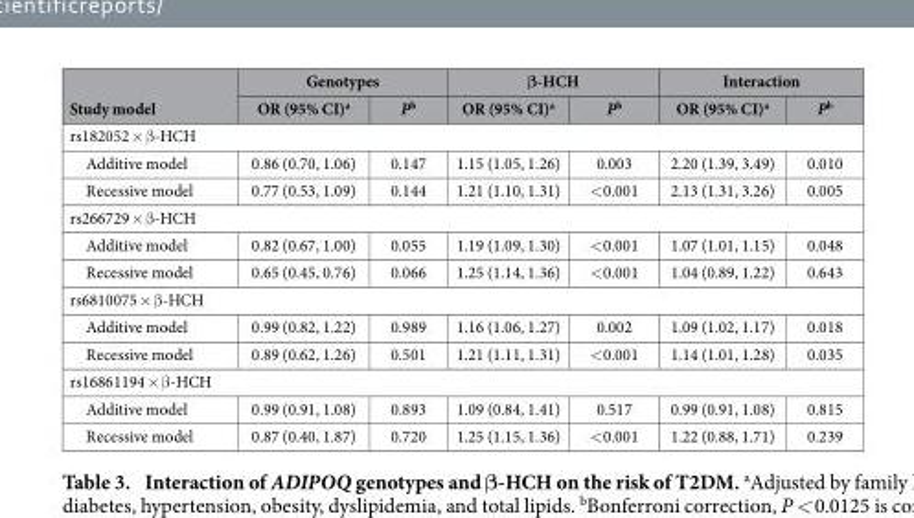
<table><thead><tr><td rowspan="2">Study model</td><td colspan="2">Genotypes</td><td colspan="2">β-HCH</td><td colspan="2">Interaction</td></tr><tr><td>OR (95% CI)<sup>a</sup></td><td>P<sup>b</sup></td><td>OR (95% CI)<sup>a</sup></td><td>P<sup>b</sup></td><td>OR (95% CI)<sup>a</sup></td><td>P<sup>b</sup></td></tr></thead><tbody><tr><td colspan="7">rs182052 × β -HCH</td></tr><tr><td>Additive model</td><td>0.86 (0.70, 1.06)</td><td>0.147</td><td>1.15 (1.05, 1.26)</td><td>0.003</td><td>2.20 (1.39, 3.49)</td><td>0.010</td></tr><tr><td>Recessive model</td><td>0.77 (0.53, 1.09)</td><td>0.144</td><td>1.21 (1.10, 1.31)</td><td>&lt; 0.001</td><td>2.13 (1.31, 3.26)</td><td>0.005</td></tr><tr><td colspan="7">rs266729 × β -HCH</td></tr><tr><td>Additive model</td><td>0.82 (0.67, 1.00)</td><td>0.055</td><td>1.19 (1.09, 1.30)</td><td>&lt; 0.001</td><td>1.07 (1.01, 1.15)</td><td>0.048</td></tr><tr><td>Recessive model</td><td>0.65 (0.45, 0.76)</td><td>0.066</td><td>1.25 (1.14, 1.36)</td><td>&lt; 0.001</td><td>1.04 (0.89, 1.22)</td><td>0.643</td></tr><tr><td colspan="7">rs6810075 × β -HCH</td></tr><tr><td>Additive model</td><td>0.99 (0.82, 1.22)</td><td>0.989</td><td>1.16 (1.06, 1.27)</td><td>0.002</td><td>1.09 (1.02, 1.17)</td><td>0.018</td></tr><tr><td>Recessive model</td><td>0.89 (0.62, 1.26)</td><td>0.501</td><td>1.21 (1.11, 1.31)</td><td>&lt; 0.001</td><td>1.14 (1.01, 1.28)</td><td>0.035</td></tr><tr><td colspan="7">rs16861194 × β -HCH</td></tr><tr><td>Additive model</td><td>0.99 (0.91, 1.08)</td><td>0.893</td><td>1.09 (0.84, 1.41)</td><td>0.517</td><td>0.99 (0.91, 1.08)</td><td>0.815</td></tr><tr><td>Recessive model</td><td>0.87 (0.40, 1.87)</td><td>0.720</td><td>1.25 (1.15, 1.36)</td><td>&lt; 0.001</td><td>1.22 (0.88, 1.71)</td><td>0.239</td></tr></tbody></table>